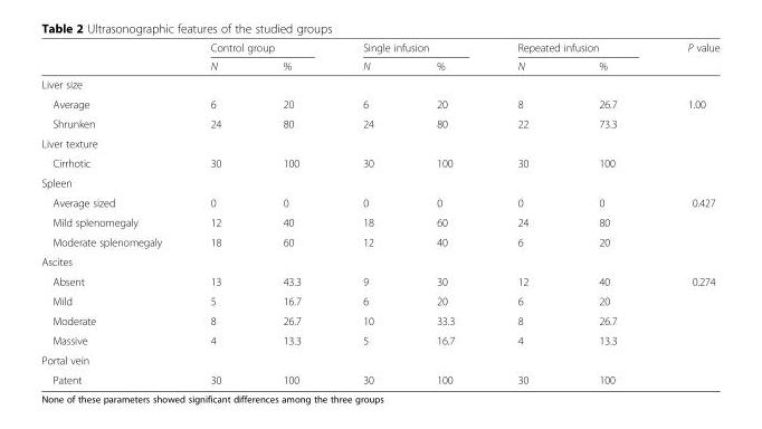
<table><thead><tr><td rowspan="2"></td><td colspan="2">Control group</td><td colspan="2">Single infusion</td><td colspan="2">Repeated infusion</td><td rowspan="2">P value</td></tr><tr><td>N</td><td>%</td><td>N</td><td>%</td><td>N</td><td>%</td></tr></thead><tbody><tr><td colspan="8">Liver size</td></tr><tr><td>Average</td><td>6</td><td>20</td><td>6</td><td>20</td><td>8</td><td>26.7</td><td rowspan="2">1.00</td></tr><tr><td>Shrunken</td><td>24</td><td>80</td><td>24</td><td>80</td><td>22</td><td>73.3</td></tr><tr><td colspan="8">Liver texture</td></tr><tr><td>Cirrhotic</td><td>30</td><td>100</td><td>30</td><td>100</td><td>30</td><td>100</td><td></td></tr><tr><td colspan="8">Spleen</td></tr><tr><td>Average sized</td><td>0</td><td>0</td><td>0</td><td>0</td><td>0</td><td>0</td><td rowspan="3">0.427</td></tr><tr><td>Mild splenomegaly</td><td>12</td><td>40</td><td>18</td><td>60</td><td>24</td><td>80</td></tr><tr><td>Moderate splenomegaly</td><td>18</td><td>60</td><td>12</td><td>40</td><td>6</td><td>20</td></tr><tr><td colspan="8">Ascites</td></tr><tr><td>Absent</td><td>13</td><td>43.3</td><td>9</td><td>30</td><td>12</td><td>40</td><td rowspan="4">0.274</td></tr><tr><td>Mild</td><td>5</td><td>16.7</td><td>6</td><td>20</td><td>6</td><td>20</td></tr><tr><td>Moderate</td><td>8</td><td>26.7</td><td>10</td><td>33.3</td><td>8</td><td>26.7</td></tr><tr><td>Massive</td><td>4</td><td>13.3</td><td>5</td><td>16.7</td><td>4</td><td>13.3</td></tr><tr><td colspan="8">Portal vein</td></tr><tr><td>Patent</td><td>30</td><td>100</td><td>30</td><td>100</td><td>30</td><td>100</td><td></td></tr></tbody></table>